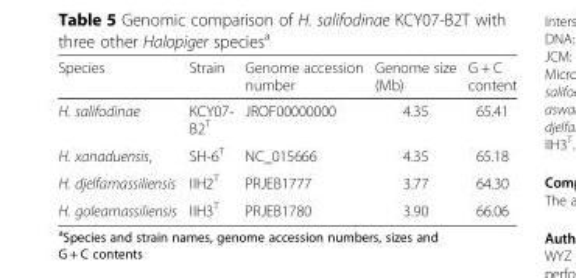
<table><thead><tr><td>Species</td><td>Strain</td><td>Genome accession number</td><td>Genome size (Mb)</td><td>G + C content</td></tr></thead><tbody><tr><td>H. salifodinae</td><td>KCY07- B2<sup>T</sup></td><td>JROF00000000</td><td>4.35</td><td>65.41</td></tr><tr><td>H. xanaduensis,</td><td>SH-6<sup>T</sup></td><td>NC_015666</td><td>4.35</td><td>65.18</td></tr><tr><td>H. djelfamassiliensis</td><td>IIH2<sup>T</sup></td><td>PRJEB1777</td><td>3.77</td><td>64.30</td></tr><tr><td>H. goleamassiliensis</td><td>IIH3<sup>T</sup></td><td>PRJEB1780</td><td>3.90</td><td>66.06</td></tr></tbody></table>